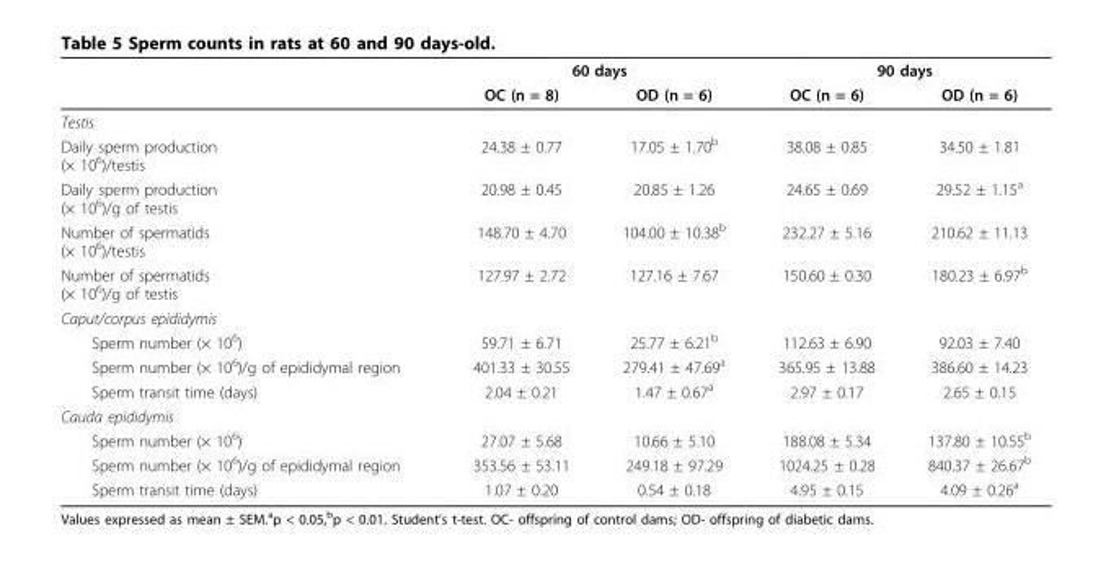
<table><thead><tr><td rowspan="2"></td><td colspan="2">60 days</td><td colspan="2">90 days</td></tr><tr><td>OC (n = 8)</td><td>OD (n = 6)</td><td>OC (n = 6)</td><td>OD (n = 6)</td></tr></thead><tbody><tr><td colspan="5">Testis</td></tr><tr><td>Daily sperm production (× 10<sup>6</sup>)/testis</td><td>24.38 ± 0.77</td><td>17.05 ± 1.70<sup>b</sup></td><td>38.08 ± 0.85</td><td>34.50 ± 1.81</td></tr><tr><td>Daily sperm production (× 10<sup>6</sup>)/g of testis</td><td>20.98 ± 0.45</td><td>20.85 ± 1.26</td><td>24.65 ± 0.69</td><td>29.52 ± 1.15<sup>a</sup></td></tr><tr><td>Number of spermatids (× 10<sup>6</sup>)/testis</td><td>148.70 ± 4.70</td><td>104.00 ± 10.38<sup>b</sup></td><td>232.27 ± 5.16</td><td>210.62 ± 11.13</td></tr><tr><td>Number of spermatids (× 10<sup>6</sup>)/g of testis</td><td>127.97 ± 2.72</td><td>127.16 ± 7.67</td><td>150.60 ± 0.30</td><td>180.23 ± 6.97<sup>b</sup></td></tr><tr><td colspan="5">Caput/corpus epididymis</td></tr><tr><td>Sperm number (× 10<sup>6</sup>)</td><td>59.71 ± 6.71</td><td>25.77 ± 6.21<sup>b</sup></td><td>112.63 ± 6.90</td><td>92.03 ± 7.40</td></tr><tr><td>Sperm number (× 10<sup>6</sup>)/g of epididymal region</td><td>401.33 ± 30.55</td><td>279.41 ± 47.69<sup>a</sup></td><td>365.95 ± 13.88</td><td>386.60 ± 14.23</td></tr><tr><td>Sperm transit time (days)</td><td>2.04 ± 0.21</td><td>1.47 ± 0.67<sup>a</sup></td><td>2.97 ± 0.17</td><td>2.65 ± 0.15</td></tr><tr><td colspan="5">Cauda epididymis</td></tr><tr><td>Sperm number (× 10<sup>6</sup>)</td><td>27.07 ± 5.68</td><td>10.66 ± 5.10</td><td>188.08 ± 5.34</td><td>137.80 ± 10.55<sup>b</sup></td></tr><tr><td>Sperm number (× 10<sup>6</sup>)/g of epididymal region</td><td>353.56 ± 53.11</td><td>249.18 ± 97.29</td><td>1024.25 ± 0.28</td><td>840.37 ± 26.67<sup>b</sup></td></tr><tr><td>Sperm transit time (days)</td><td>1.07 ± 0.20</td><td>0.54 ± 0.18</td><td>4.95 ± 0.15</td><td>4.09 ± 0.26<sup>a</sup></td></tr></tbody></table>